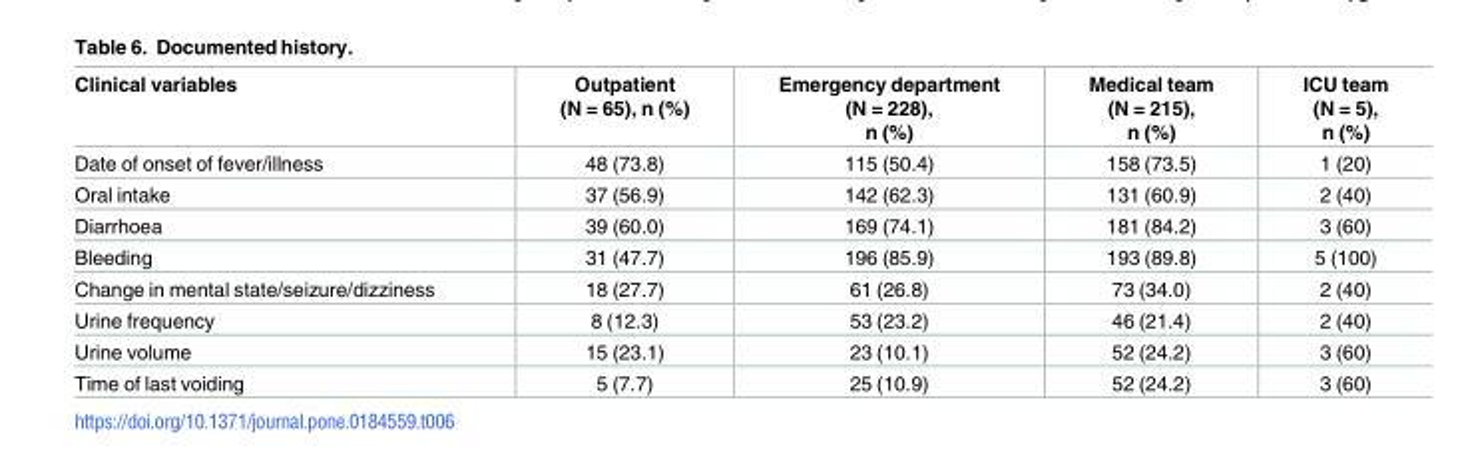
<table><thead><tr><td>Clinical variables</td><td>Outpatient (N = 65), n (%)</td><td>Emergency department (N = 228), n (%)</td><td>Medical team (N = 215), n (%)</td><td>ICU team (N = 5), n (%)</td></tr></thead><tbody><tr><td>Date of onset of fever/illness</td><td>48 (73.8)</td><td>115 (50.4)</td><td>158 (73.5)</td><td>1 (20)</td></tr><tr><td>Oral intake</td><td>37 (56.9)</td><td>142 (62.3)</td><td>131 (60.9)</td><td>2 (40)</td></tr><tr><td>Diarrhoea</td><td>39 (60.0)</td><td>169 (74.1)</td><td>181 (84.2)</td><td>3 (60)</td></tr><tr><td>Bleeding</td><td>31 (47.7)</td><td>196 (85.9)</td><td>193 (89.8)</td><td>5 (100)</td></tr><tr><td>Change in mental state/seizure/dizziness</td><td>18 (27.7)</td><td>61 (26.8)</td><td>73 (34.0)</td><td>2 (40)</td></tr><tr><td>Urine frequency</td><td>8 (12.3)</td><td>53 (23.2)</td><td>46 (21.4)</td><td>2 (40)</td></tr><tr><td>Urine volume</td><td>15 (23.1)</td><td>23 (10.1)</td><td>52 (24.2)</td><td>3 (60)</td></tr><tr><td>Time of last voiding</td><td>5 (7.7)</td><td>25 (10.9)</td><td>52 (24.2)</td><td>3 (60)</td></tr></tbody></table>